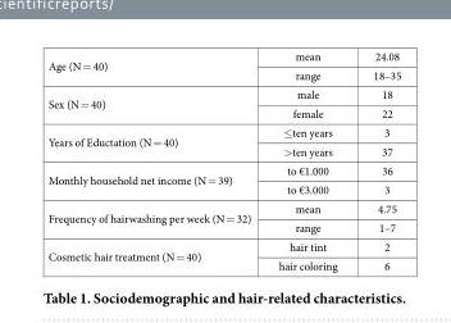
<table><tbody><tr><td rowspan="2">Age (N = 40)</td><td>mean</td><td>24.08</td></tr><tr><td>range</td><td>18–35</td></tr><tr><td rowspan="2">Sex (N = 40)</td><td>male</td><td>18</td></tr><tr><td>female</td><td>22</td></tr><tr><td rowspan="2">Years of Eductation (N = 40)</td><td>≤ ten years</td><td>3</td></tr><tr><td>&gt; ten years</td><td>37</td></tr><tr><td rowspan="2">Monthly household net income (N = 39)</td><td>to €1.000</td><td>36</td></tr><tr><td>to €3.000</td><td>3</td></tr><tr><td rowspan="2">Frequency of hairwashing per week (N = 32)</td><td>mean</td><td>4.75</td></tr><tr><td>range</td><td>1–7</td></tr><tr><td rowspan="2">Cosmetic hair treatment (N = 40)</td><td>hair tint</td><td>2</td></tr><tr><td>hair coloring</td><td>6</td></tr></tbody></table>